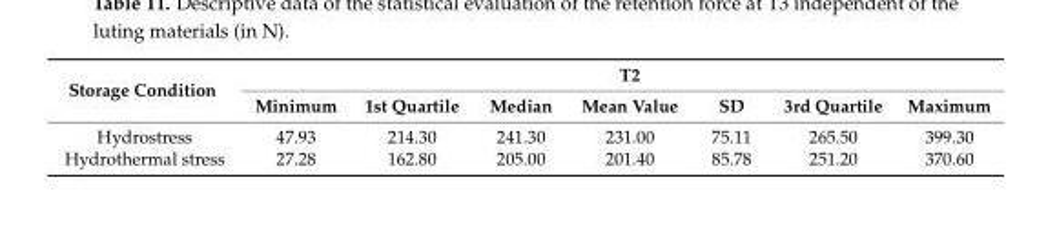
<table><thead><tr><td rowspan="2">Storage Condition</td><td rowspan="2">Minimum</td><td rowspan="2">1st Quartile</td><td rowspan="2">Median</td><td rowspan="2">T2 Mean Value</td><td rowspan="2">SD</td><td rowspan="2">3rd Quartile</td><td rowspan="2">Maximum</td></tr><tr></tr></thead><tbody><tr><td>Hydrostress</td><td>47.93</td><td>214.30</td><td>241.30</td><td>231.00</td><td>75.11</td><td>265.50</td><td>399.30</td></tr><tr><td>Hydrothermal stress</td><td>27.28</td><td>162.80</td><td>205.00</td><td>201.40</td><td>85.78</td><td>251.20</td><td>370.60</td></tr></tbody></table>